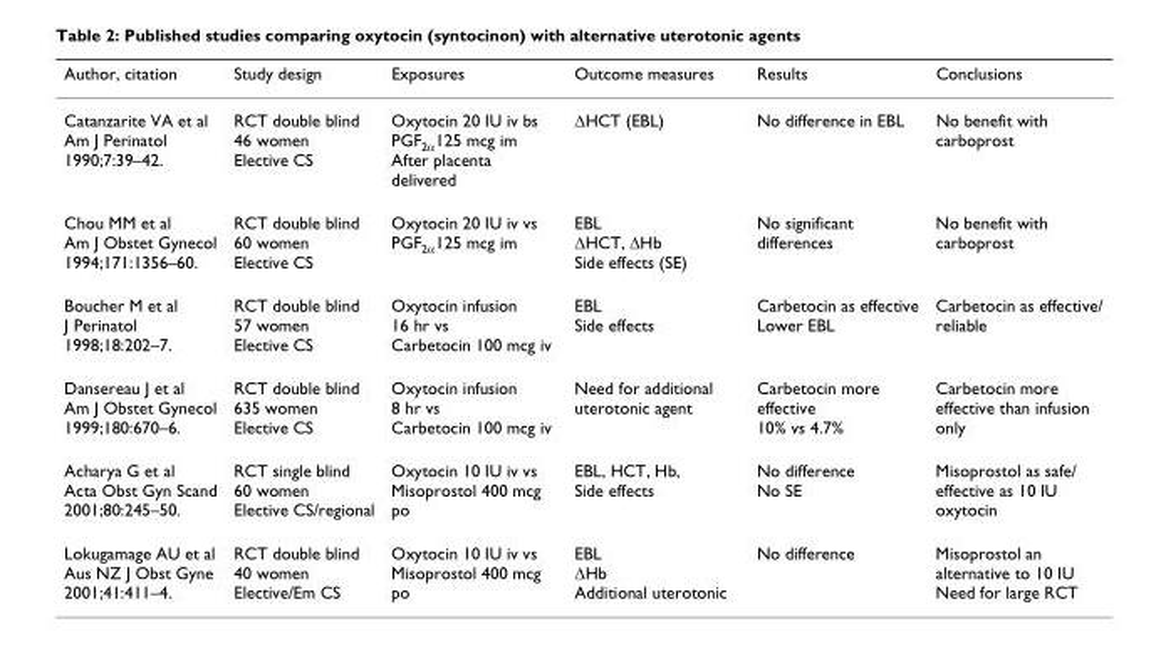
<table><thead><tr><td>Author, citation</td><td>Study design</td><td>Exposures</td><td>Outcome measures</td><td>Results</td><td>Conclusions</td></tr></thead><tbody><tr><td>Catanzarite VA et al Am J Perinatol 1990;7:39–42.</td><td>RCT double blind 46 women Elective CS</td><td>Oxytocin 20 IU iv bs PGF<sub>2α</sub>125 mcg im After placenta delivered</td><td>ΔHCT (EBL)</td><td>No difference in EBL</td><td>No benefit with carboprost</td></tr><tr><td>Chou MM et al Am J Obstet Gynecol 1994;171:1356–60.</td><td>RCT double blind 60 women Elective CS</td><td>Oxytocin 20 IU iv vs PGF<sub>2α</sub>125 mcg im</td><td>EBL ΔHCT, ΔHb Side effects (SE)</td><td>No significant differences</td><td>No benefit with carboprost</td></tr><tr><td>Boucher M et al J Perinatol 1998;18:202–7.</td><td>RCT double blind 57 women Elective CS</td><td>Oxytocin infusion 16 hr vs Carbetocin 100 mcg iv</td><td>EBL Side effects</td><td>Carbetocin as effective Lower EBL</td><td>Carbetocin as effective/ reliable</td></tr><tr><td>Dansereau J et al Am J Obstet Gynecol 1999;180:670–6.</td><td>RCT double blind 635 women Elective CS</td><td>Oxytocin infusion 8 hr vs Carbetocin 100 mcg iv</td><td>Need for additional uterotonic agent</td><td>Carbetocin more effective 10% vs 4.7%</td><td>Carbetocin more effective than infusion only</td></tr><tr><td>Acharya G et al Acta Obst Gyn Scand 2001;80:245–50.</td><td>RCT single blind 60 women Elective CS/regional</td><td>Oxytocin 10 IU iv vs Misoprostol 400 mcg po</td><td>EBL, HCT, Hb, Side effects</td><td>No difference No SE</td><td>Misoprostol as safe/ effective as 10 IU oxytocin</td></tr><tr><td>Lokugamage AU et al Aus NZ J Obst Gyne 2001;41:411–4.</td><td>RCT double blind 40 women Elective/Em CS</td><td>Oxytocin 10 IU iv vs Misoprostol 400 mcg po</td><td>EBL ΔHb Additional uterotonic</td><td>No difference</td><td>Misoprostol an alternative to 10 IU Need for large RCT</td></tr></tbody></table>